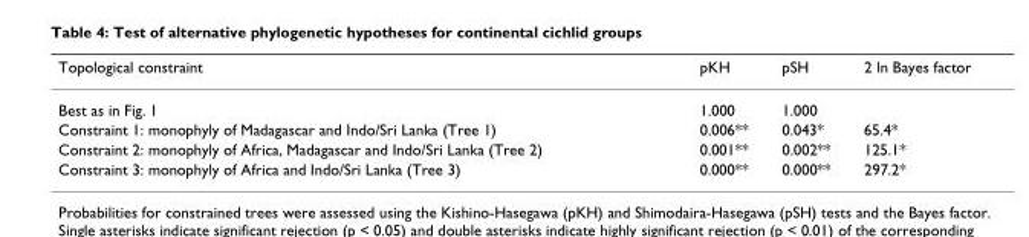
<table><thead><tr><td>Topological constraint</td><td>pKH</td><td>pSH</td><td>2 ln Bayes factor</td></tr></thead><tbody><tr><td>Best as in Fig. 1</td><td>1.000</td><td>1.000</td><td></td></tr><tr><td>Constraint 1: monophyly of Madagascar and Indo/Sri Lanka (Tree 1)</td><td>0.006**</td><td>0.043*</td><td>65.4*</td></tr><tr><td>Constraint 2: monophyly of Africa, Madagascar and Indo/Sri Lanka (Tree 2)</td><td>0.001**</td><td>0.002**</td><td>125.1*</td></tr><tr><td>Constraint 3: monophyly of Africa and Indo/Sri Lanka (Tree 3)</td><td>0.000**</td><td>0.000**</td><td>297.2*</td></tr></tbody></table>